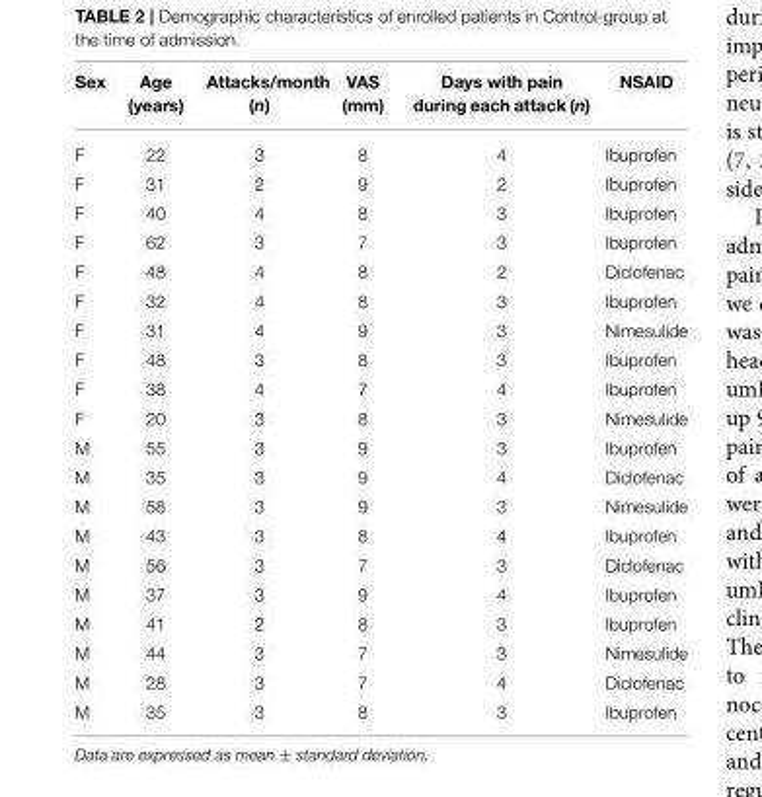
<table><thead><tr><td>Sex</td><td>Age (years)</td><td>Attacks/month (n)</td><td>VAS (mm)</td><td>Days with pain during each attack (n)</td><td>NSAID</td></tr></thead><tbody><tr><td>F</td><td>22</td><td>3</td><td>8</td><td>4</td><td>Ibuprofen</td></tr><tr><td>F</td><td>31</td><td>2</td><td>9</td><td>2</td><td>Ibuprofen</td></tr><tr><td>F</td><td>40</td><td>4</td><td>8</td><td>3</td><td>Ibuprofen</td></tr><tr><td>F</td><td>62</td><td>3</td><td>7</td><td>3</td><td>Ibuprofen</td></tr><tr><td>F</td><td>48</td><td>4</td><td>8</td><td>2</td><td>Diclofenac</td></tr><tr><td>F</td><td>32</td><td>4</td><td>8</td><td>3</td><td>Ibuprofen</td></tr><tr><td>F</td><td>31</td><td>4</td><td>9</td><td>3</td><td>Nimesulide</td></tr><tr><td>F</td><td>48</td><td>3</td><td>8</td><td>3</td><td>Ibuprofen</td></tr><tr><td>F</td><td>38</td><td>4</td><td>7</td><td>4</td><td>Ibuprofen</td></tr><tr><td>F</td><td>20</td><td>3</td><td>8</td><td>3</td><td>Nimesulide</td></tr><tr><td>M</td><td>55</td><td>3</td><td>9</td><td>3</td><td>Ibuprofen</td></tr><tr><td>M</td><td>35</td><td>3</td><td>9</td><td>4</td><td>Diclofenac</td></tr><tr><td>M</td><td>58</td><td>3</td><td>9</td><td>3</td><td>Nimesulide</td></tr><tr><td>M</td><td>43</td><td>3</td><td>8</td><td>4</td><td>Ibuprofen</td></tr><tr><td>M</td><td>56</td><td>3</td><td>7</td><td>3</td><td>Diclofenac</td></tr><tr><td>M</td><td>37</td><td>3</td><td>9</td><td>4</td><td>Ibuprofen</td></tr><tr><td>M</td><td>41</td><td>2</td><td>8</td><td>3</td><td>Ibuprofen</td></tr><tr><td>M</td><td>44</td><td>3</td><td>7</td><td>3</td><td>Nimesulide</td></tr><tr><td>M</td><td>28</td><td>3</td><td>7</td><td>4</td><td>Diclofenac</td></tr><tr><td>M</td><td>35</td><td>3</td><td>8</td><td>3</td><td>Ibuprofen</td></tr></tbody></table>